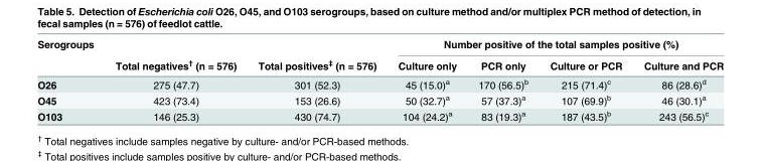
<table><thead><tr><td rowspan="2">Serogroups</td><td rowspan="2">Total negatives<sup>†</sup> (n = 576)</td><td rowspan="2">Total positives<sup>‡</sup> (n = 576)</td><td colspan="4">Number positive of the total samples positive (%)</td></tr><tr><td>Culture only</td><td>PCR only</td><td>Culture or PCR</td><td>Culture and PCR</td></tr></thead><tbody><tr><td>O26</td><td>275 (47.7)</td><td>301 (52.3)</td><td>45 (15.0)<sup>a</sup></td><td>170 (56.5)<sup>b</sup></td><td>215 (71.4)<sup>c</sup></td><td>86 (28.6)<sup>d</sup></td></tr><tr><td>O45</td><td>423 (73.4)</td><td>153 (26.6)</td><td>50 (32.7)<sup>a</sup></td><td>57 (37.3)<sup>a</sup></td><td>107 (69.9)<sup>b</sup></td><td>46 (30.1)<sup>a</sup></td></tr><tr><td>O103</td><td>146 (25.3)</td><td>430 (74.7)</td><td>104 (24.2)<sup>a</sup></td><td>83 (19.3)<sup>a</sup></td><td>187 (43.5)<sup>b</sup></td><td>243 (56.5)<sup>c</sup></td></tr></tbody></table>